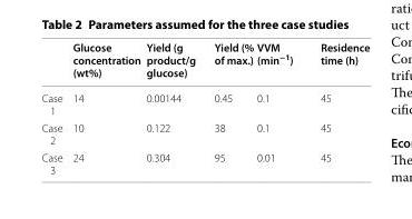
<table><thead><tr><td></td><td>Glucose concentration (wt%)</td><td>Yield (g product/g glucose)</td><td>Yield (% of max.)</td><td>VVM (min<sup>−1</sup>)</td><td>Residence time (h)</td></tr></thead><tbody><tr><td>Case 1</td><td>14</td><td>0.00144</td><td>0.45</td><td>0.1</td><td>45</td></tr><tr><td>Case 2</td><td>10</td><td>0.122</td><td>38</td><td>0.1</td><td>45</td></tr><tr><td>Case 3</td><td>24</td><td>0.304</td><td>95</td><td>0.01</td><td>45</td></tr></tbody></table>